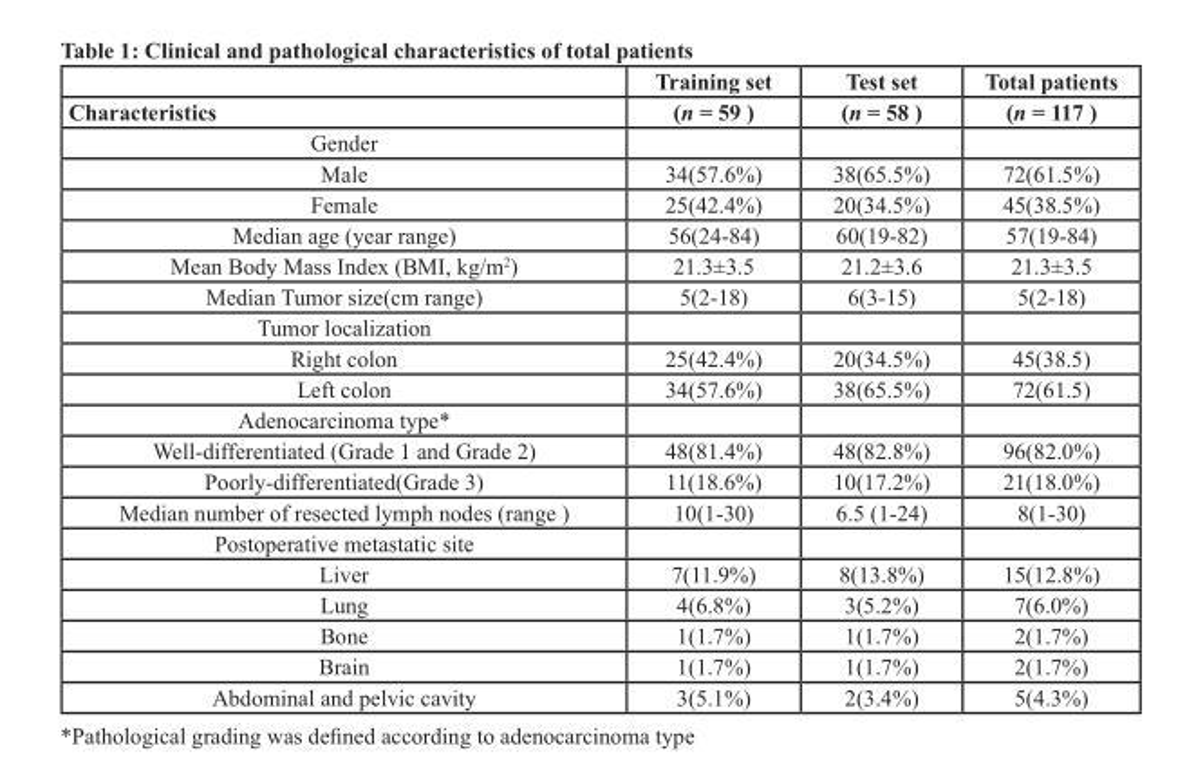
<table><thead><tr><td rowspan="2">Characteristics</td><td rowspan="2">Training set (n = 59 )</td><td rowspan="2">Test set (n = 58 )</td><td rowspan="2">Total patients (n = 117 )</td></tr><tr></tr></thead><tbody><tr><td colspan="4">Gender</td></tr><tr><td>Male</td><td>34(57.6%)</td><td>38(65.5%)</td><td>72(61.5%)</td></tr><tr><td>Female</td><td>25(42.4%)</td><td>20(34.5%)</td><td>45(38.5%)</td></tr><tr><td>Median age (year range)</td><td>56(24-84)</td><td>60(19-82)</td><td>57(19-84)</td></tr><tr><td>Mean Body Mass Index (BMI, kg/m<sup>2</sup>)</td><td>21.3±3.5</td><td>21.2±3.6</td><td>21.3±3.5</td></tr><tr><td>Median Tumor size(cm range)</td><td>5(2-18)</td><td>6(3-15)</td><td>5(2-18)</td></tr><tr><td colspan="4">Tumor localization</td></tr><tr><td>Right colon</td><td>25(42.4%)</td><td>20(34.5%)</td><td>45(38.5)</td></tr><tr><td>Left colon</td><td>34(57.6%)</td><td>38(65.5%)</td><td>72(61.5)</td></tr><tr><td colspan="4">Adenocarcinoma type*</td></tr><tr><td>Well-differentiated (Grade 1 and Grade 2)</td><td>48(81.4%)</td><td>48(82.8%)</td><td>96(82.0%)</td></tr><tr><td>Poorly-differentiated(Grade 3)</td><td>11(18.6%)</td><td>10(17.2%)</td><td>21(18.0%)</td></tr><tr><td>Median number of resected lymph nodes (range )</td><td>10(1-30)</td><td>6.5 (1-24)</td><td>8(1-30)</td></tr><tr><td colspan="4">Postoperative metastatic site</td></tr><tr><td>Liver</td><td>7(11.9%)</td><td>8(13.8%)</td><td>15(12.8%)</td></tr><tr><td>Lung</td><td>4(6.8%)</td><td>3(5.2%)</td><td>7(6.0%)</td></tr><tr><td>Bone</td><td>1(1.7%)</td><td>1(1.7%)</td><td>2(1.7%)</td></tr><tr><td>Brain</td><td>1(1.7%)</td><td>1(1.7%)</td><td>2(1.7%)</td></tr><tr><td>Abdominal and pelvic cavity</td><td>3(5.1%)</td><td>2(3.4%)</td><td>5(4.3%)</td></tr></tbody></table>